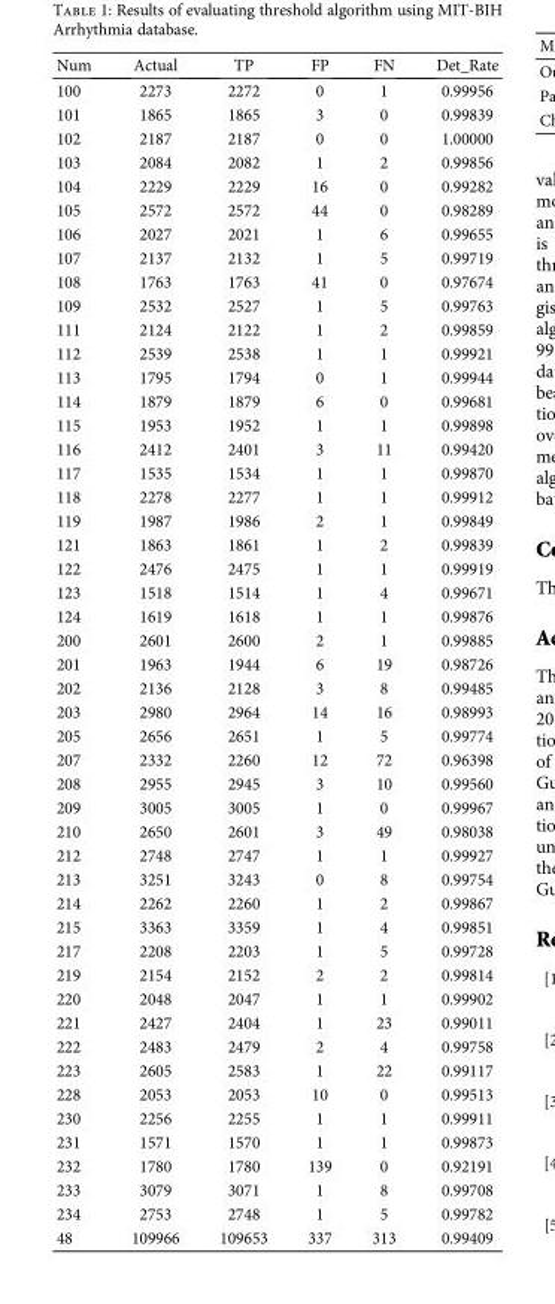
<table><thead><tr><td>Num</td><td>Actual</td><td>TP</td><td>FP</td><td>FN</td><td>Det_Rate</td></tr></thead><tbody><tr><td>100</td><td>2273</td><td>2272</td><td>0</td><td>1</td><td>0.99956</td></tr><tr><td>101</td><td>1865</td><td>1865</td><td>3</td><td>0</td><td>0.99839</td></tr><tr><td>102</td><td>2187</td><td>2187</td><td>0</td><td>0</td><td>1.00000</td></tr><tr><td>103</td><td>2084</td><td>2082</td><td>1</td><td>2</td><td>0.99856</td></tr><tr><td>104</td><td>2229</td><td>2229</td><td>16</td><td>0</td><td>0.99282</td></tr><tr><td>105</td><td>2572</td><td>2572</td><td>44</td><td>0</td><td>0.98289</td></tr><tr><td>106</td><td>2027</td><td>2021</td><td>1</td><td>6</td><td>0.99655</td></tr><tr><td>107</td><td>2137</td><td>2132</td><td>1</td><td>5</td><td>0.99719</td></tr><tr><td>108</td><td>1763</td><td>1763</td><td>41</td><td>0</td><td>0.97674</td></tr><tr><td>109</td><td>2532</td><td>2527</td><td>1</td><td>5</td><td>0.99763</td></tr><tr><td>111</td><td>2124</td><td>2122</td><td>1</td><td>2</td><td>0.99859</td></tr><tr><td>112</td><td>2539</td><td>2538</td><td>1</td><td>1</td><td>0.99921</td></tr><tr><td>113</td><td>1795</td><td>1794</td><td>0</td><td>1</td><td>0.99944</td></tr><tr><td>114</td><td>1879</td><td>1879</td><td>6</td><td>0</td><td>0.99681</td></tr><tr><td>115</td><td>1953</td><td>1952</td><td>1</td><td>1</td><td>0.99898</td></tr><tr><td>116</td><td>2412</td><td>2401</td><td>3</td><td>11</td><td>0.99420</td></tr><tr><td>117</td><td>1535</td><td>1534</td><td>1</td><td>1</td><td>0.99870</td></tr><tr><td>118</td><td>2278</td><td>2277</td><td>1</td><td>1</td><td>0.99912</td></tr><tr><td>119</td><td>1987</td><td>1986</td><td>2</td><td>1</td><td>0.99849</td></tr><tr><td>121</td><td>1863</td><td>1861</td><td>1</td><td>2</td><td>0.99839</td></tr><tr><td>122</td><td>2476</td><td>2475</td><td>1</td><td>1</td><td>0.99919</td></tr><tr><td>123</td><td>1518</td><td>1514</td><td>1</td><td>4</td><td>0.99671</td></tr><tr><td>124</td><td>1619</td><td>1618</td><td>1</td><td>1</td><td>0.99876</td></tr><tr><td>200</td><td>2601</td><td>2600</td><td>2</td><td>1</td><td>0.99885</td></tr><tr><td>201</td><td>1963</td><td>1944</td><td>6</td><td>19</td><td>0.98726</td></tr><tr><td>202</td><td>2136</td><td>2128</td><td>3</td><td>8</td><td>0.99485</td></tr><tr><td>203</td><td>2980</td><td>2964</td><td>14</td><td>16</td><td>0.98993</td></tr><tr><td>205</td><td>2656</td><td>2651</td><td>1</td><td>5</td><td>0.99774</td></tr><tr><td>207</td><td>2332</td><td>2260</td><td>12</td><td>72</td><td>0.96398</td></tr><tr><td>208</td><td>2955</td><td>2945</td><td>3</td><td>10</td><td>0.99560</td></tr><tr><td>209</td><td>3005</td><td>3005</td><td>1</td><td>0</td><td>0.99967</td></tr><tr><td>210</td><td>2650</td><td>2601</td><td>3</td><td>49</td><td>0.98038</td></tr><tr><td>212</td><td>2748</td><td>2747</td><td>1</td><td>1</td><td>0.99927</td></tr><tr><td>213</td><td>3251</td><td>3243</td><td>0</td><td>8</td><td>0.99754</td></tr><tr><td>214</td><td>2262</td><td>2260</td><td>1</td><td>2</td><td>0.99867</td></tr><tr><td>215</td><td>3363</td><td>3359</td><td>1</td><td>4</td><td>0.99851</td></tr><tr><td>217</td><td>2208</td><td>2203</td><td>1</td><td>5</td><td>0.99728</td></tr><tr><td>219</td><td>2154</td><td>2152</td><td>2</td><td>2</td><td>0.99814</td></tr><tr><td>220</td><td>2048</td><td>2047</td><td>1</td><td>1</td><td>0.99902</td></tr><tr><td>221</td><td>2427</td><td>2404</td><td>1</td><td>23</td><td>0.99011</td></tr><tr><td>222</td><td>2483</td><td>2479</td><td>2</td><td>4</td><td>0.99758</td></tr><tr><td>223</td><td>2605</td><td>2583</td><td>1</td><td>22</td><td>0.99117</td></tr><tr><td>228</td><td>2053</td><td>2053</td><td>10</td><td>0</td><td>0.99513</td></tr><tr><td>230</td><td>2256</td><td>2255</td><td>1</td><td>1</td><td>0.99911</td></tr><tr><td>231</td><td>1571</td><td>1570</td><td>1</td><td>1</td><td>0.99873</td></tr><tr><td>232</td><td>1780</td><td>1780</td><td>139</td><td>0</td><td>0.92191</td></tr><tr><td>233</td><td>3079</td><td>3071</td><td>1</td><td>8</td><td>0.99708</td></tr><tr><td>234</td><td>2753</td><td>2748</td><td>1</td><td>5</td><td>0.99782</td></tr><tr><td>48</td><td>109966</td><td>109653</td><td>337</td><td>313</td><td>0.99409</td></tr></tbody></table>